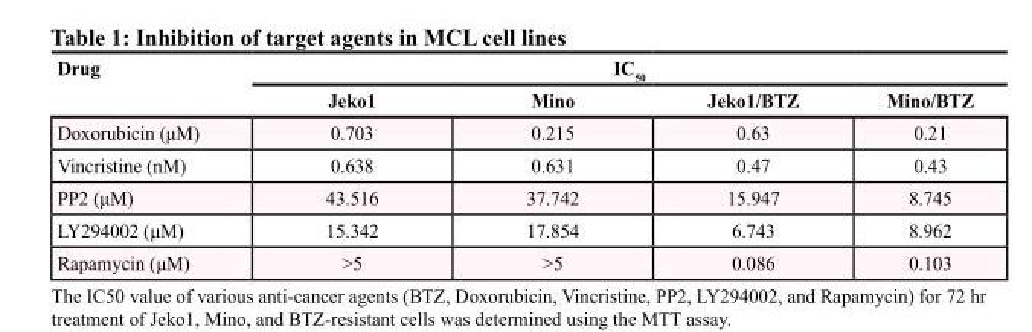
<table><thead><tr><td rowspan="2">Drug</td><td colspan="4">IC<sub>50</sub></td></tr><tr><td>Jeko1</td><td>Mino</td><td>Jeko1/BTZ</td><td>Mino/BTZ</td></tr></thead><tbody><tr><td>Doxorubicin (μM)</td><td>0.703</td><td>0.215</td><td>0.63</td><td>0.21</td></tr><tr><td>Vincristine (nM)</td><td>0.638</td><td>0.631</td><td>0.47</td><td>0.43</td></tr><tr><td>PP2 (μM)</td><td>43.516</td><td>37.742</td><td>15.947</td><td>8.745</td></tr><tr><td>LY294002 (μM)</td><td>15.342</td><td>17.854</td><td>6.743</td><td>8.962</td></tr><tr><td>Rapamycin (μM)</td><td>&gt;5</td><td>&gt;5</td><td>0.086</td><td>0.103</td></tr></tbody></table>